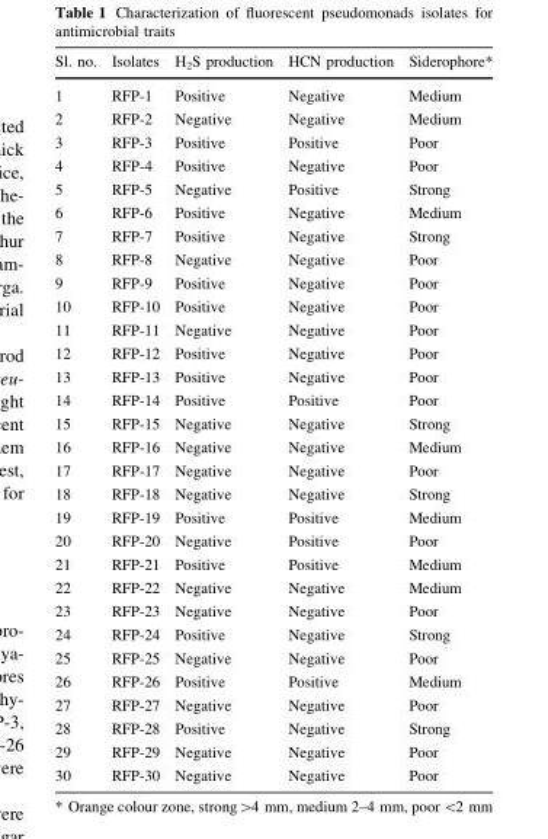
<table><thead><tr><td>Sl. no.</td><td>Isolates</td><td>H<sub>2</sub>S production</td><td>HCN production</td><td>Siderophore*</td></tr></thead><tbody><tr><td>1</td><td>RFP-1</td><td>Positive</td><td>Negative</td><td>Medium</td></tr><tr><td>2</td><td>RFP-2</td><td>Negative</td><td>Negative</td><td>Medium</td></tr><tr><td>3</td><td>RFP-3</td><td>Positive</td><td>Positive</td><td>Poor</td></tr><tr><td>4</td><td>RFP-4</td><td>Positive</td><td>Negative</td><td>Poor</td></tr><tr><td>5</td><td>RFP-5</td><td>Negative</td><td>Positive</td><td>Strong</td></tr><tr><td>6</td><td>RFP-6</td><td>Positive</td><td>Negative</td><td>Medium</td></tr><tr><td>7</td><td>RFP-7</td><td>Positive</td><td>Negative</td><td>Strong</td></tr><tr><td>8</td><td>RFP-8</td><td>Negative</td><td>Negative</td><td>Poor</td></tr><tr><td>9</td><td>RFP-9</td><td>Positive</td><td>Negative</td><td>Poor</td></tr><tr><td>10</td><td>RFP-10</td><td>Positive</td><td>Negative</td><td>Poor</td></tr><tr><td>11</td><td>RFP-11</td><td>Negative</td><td>Negative</td><td>Poor</td></tr><tr><td>12</td><td>RFP-12</td><td>Positive</td><td>Negative</td><td>Poor</td></tr><tr><td>13</td><td>RFP-13</td><td>Positive</td><td>Negative</td><td>Poor</td></tr><tr><td>14</td><td>RFP-14</td><td>Positive</td><td>Positive</td><td>Poor</td></tr><tr><td>15</td><td>RFP-15</td><td>Negative</td><td>Negative</td><td>Strong</td></tr><tr><td>16</td><td>RFP-16</td><td>Negative</td><td>Negative</td><td>Medium</td></tr><tr><td>17</td><td>RFP-17</td><td>Negative</td><td>Negative</td><td>Poor</td></tr><tr><td>18</td><td>RFP-18</td><td>Negative</td><td>Negative</td><td>Strong</td></tr><tr><td>19</td><td>RFP-19</td><td>Positive</td><td>Positive</td><td>Medium</td></tr><tr><td>20</td><td>RFP-20</td><td>Negative</td><td>Positive</td><td>Poor</td></tr><tr><td>21</td><td>RFP-21</td><td>Positive</td><td>Positive</td><td>Medium</td></tr><tr><td>22</td><td>RFP-22</td><td>Negative</td><td>Negative</td><td>Medium</td></tr><tr><td>23</td><td>RFP-23</td><td>Negative</td><td>Negative</td><td>Poor</td></tr><tr><td>24</td><td>RFP-24</td><td>Positive</td><td>Negative</td><td>Strong</td></tr><tr><td>25</td><td>RFP-25</td><td>Negative</td><td>Negative</td><td>Poor</td></tr><tr><td>26</td><td>RFP-26</td><td>Positive</td><td>Positive</td><td>Medium</td></tr><tr><td>27</td><td>RFP-27</td><td>Negative</td><td>Negative</td><td>Poor</td></tr><tr><td>28</td><td>RFP-28</td><td>Positive</td><td>Negative</td><td>Strong</td></tr><tr><td>29</td><td>RFP-29</td><td>Negative</td><td>Negative</td><td>Poor</td></tr><tr><td>30</td><td>RFP-30</td><td>Negative</td><td>Negative</td><td>Poor</td></tr></tbody></table>